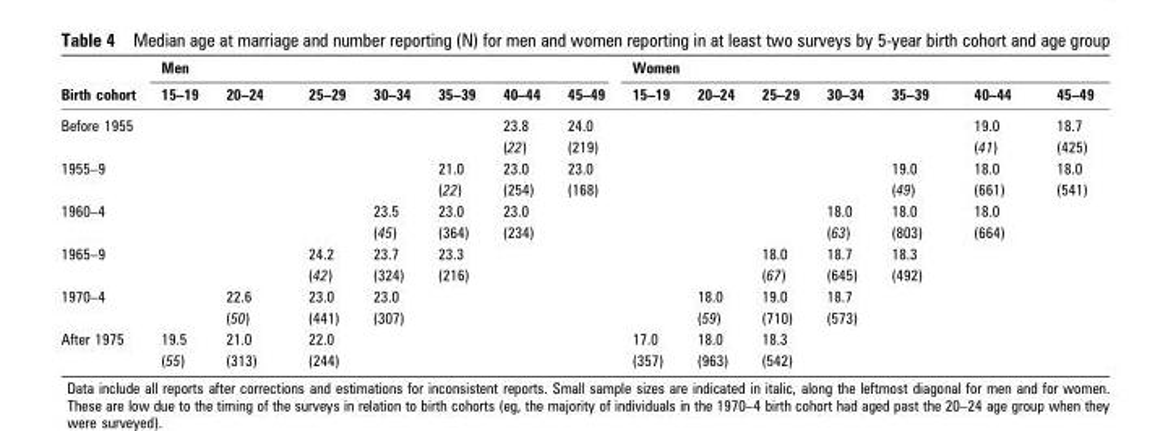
<table><thead><tr><td rowspan="2">Birth cohort</td><td colspan="7">Men</td><td colspan="7">Women</td></tr><tr><td>15–19</td><td>20–24</td><td>25–29</td><td>30–34</td><td>35–39</td><td>40–44</td><td>45–49</td><td>15–19</td><td>20–24</td><td>25–29</td><td>30–34</td><td>35–39</td><td>40–44</td><td>45–49</td></tr></thead><tbody><tr><td rowspan="2">Before 1955</td><td></td><td></td><td></td><td></td><td></td><td>23.8</td><td>24.0</td><td></td><td></td><td></td><td></td><td></td><td>19.0</td><td>18.7</td></tr><tr><td></td><td></td><td></td><td></td><td></td><td>(22)</td><td>(219)</td><td></td><td></td><td></td><td></td><td></td><td>(41)</td><td>(425)</td></tr><tr><td rowspan="2">1955–9</td><td></td><td></td><td></td><td></td><td>21.0</td><td>23.0</td><td>23.0</td><td></td><td></td><td></td><td></td><td>19.0</td><td>18.0</td><td>18.0</td></tr><tr><td></td><td></td><td></td><td></td><td>(22)</td><td>(254)</td><td>(168)</td><td></td><td></td><td></td><td></td><td>(49)</td><td>(661)</td><td>(541)</td></tr><tr><td rowspan="2">1960–4</td><td></td><td></td><td></td><td>23.5</td><td>23.0</td><td>23.0</td><td></td><td></td><td></td><td></td><td>18.0</td><td>18.0</td><td>18.0</td><td></td></tr><tr><td></td><td></td><td></td><td>(45)</td><td>(364)</td><td>(234)</td><td></td><td></td><td></td><td></td><td>(63)</td><td>(803)</td><td>(664)</td><td></td></tr><tr><td rowspan="2">1965–9</td><td></td><td></td><td>24.2</td><td>23.7</td><td>23.3</td><td></td><td></td><td></td><td></td><td>18.0</td><td>18.7</td><td>18.3</td><td></td><td></td></tr><tr><td></td><td></td><td>(42)</td><td>(324)</td><td>(216)</td><td></td><td></td><td></td><td></td><td>(67)</td><td>(645)</td><td>(492)</td><td></td><td></td></tr><tr><td rowspan="2">1970–4</td><td></td><td>22.6</td><td>23.0</td><td>23.0</td><td></td><td></td><td></td><td></td><td>18.0</td><td>19.0</td><td>18.7</td><td></td><td></td><td></td></tr><tr><td></td><td>(50)</td><td>(441)</td><td>(307)</td><td></td><td></td><td></td><td></td><td>(59)</td><td>(710)</td><td>(573)</td><td></td><td></td><td></td></tr><tr><td rowspan="2">After 1975</td><td>19.5</td><td>21.0</td><td>22.0</td><td></td><td></td><td></td><td></td><td>17.0</td><td>18.0</td><td>18.3</td><td></td><td></td><td></td><td></td></tr><tr><td>(55)</td><td>(313)</td><td>(244)</td><td></td><td></td><td></td><td></td><td>(357)</td><td>(963)</td><td>(542)</td><td></td><td></td><td></td><td></td></tr></tbody></table>